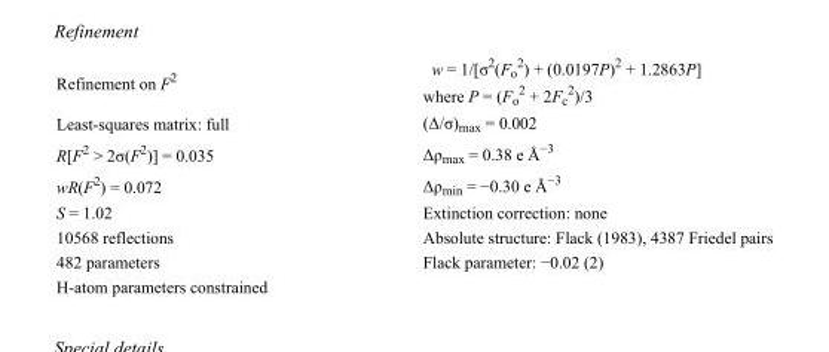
<table><tbody><tr><td>Refinement on F<sup>2</sup></td><td>w = 1/[σ<sup>2</sup>(F<sub>o</sub> <sup>2</sup>) + (0.0197P)<sup>2</sup> + 1.2863P] where P = (F<sub>o</sub> <sup>2</sup> + 2F<sub>c</sub> <sup>2</sup>)/3</td></tr><tr><td>Least-squares matrix: full</td><td>(Δ/σ)<sub>max</sub> = 0.002</td></tr><tr><td>R[F<sup>2</sup> &gt; 2σ(F<sup>2</sup>)] = 0.035</td><td>Δρ<sub>max</sub> = 0.38 e Å<sup>−3</sup></td></tr><tr><td>wR(F<sup>2</sup>) = 0.072</td><td>Δρ<sub>min</sub> = −0.30 e Å<sup>−3</sup></td></tr><tr><td>S = 1.02</td><td>Extinction correction: none</td></tr><tr><td>10568 reflections</td><td>Absolute structure: Flack (1983), 4387 Friedel pairs</td></tr><tr><td>482 parameters</td><td>Flack parameter: −0.02 (2)</td></tr><tr><td>H-atom parameters constrained</td><td></td></tr></tbody></table>